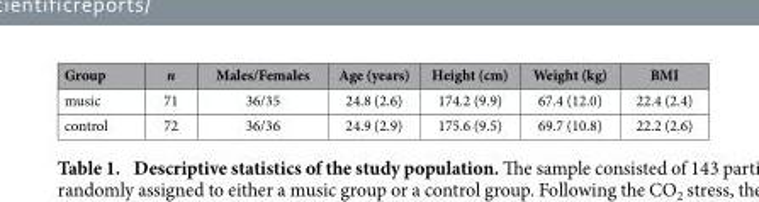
<table><thead><tr><td>Group</td><td>n</td><td>Males/Females</td><td>Age (years)</td><td>Height (cm)</td><td>Weight (kg)</td><td>BMI</td></tr></thead><tbody><tr><td>music</td><td>71</td><td>36/35</td><td>24.8 (2.6)</td><td>174.2 (9.9)</td><td>67.4 (12.0)</td><td>22.4 (2.4)</td></tr><tr><td>control</td><td>72</td><td>36/36</td><td>24.9 (2.9)</td><td>175.6 (9.5)</td><td>69.7 (10.8)</td><td>22.2 (2.6)</td></tr></tbody></table>